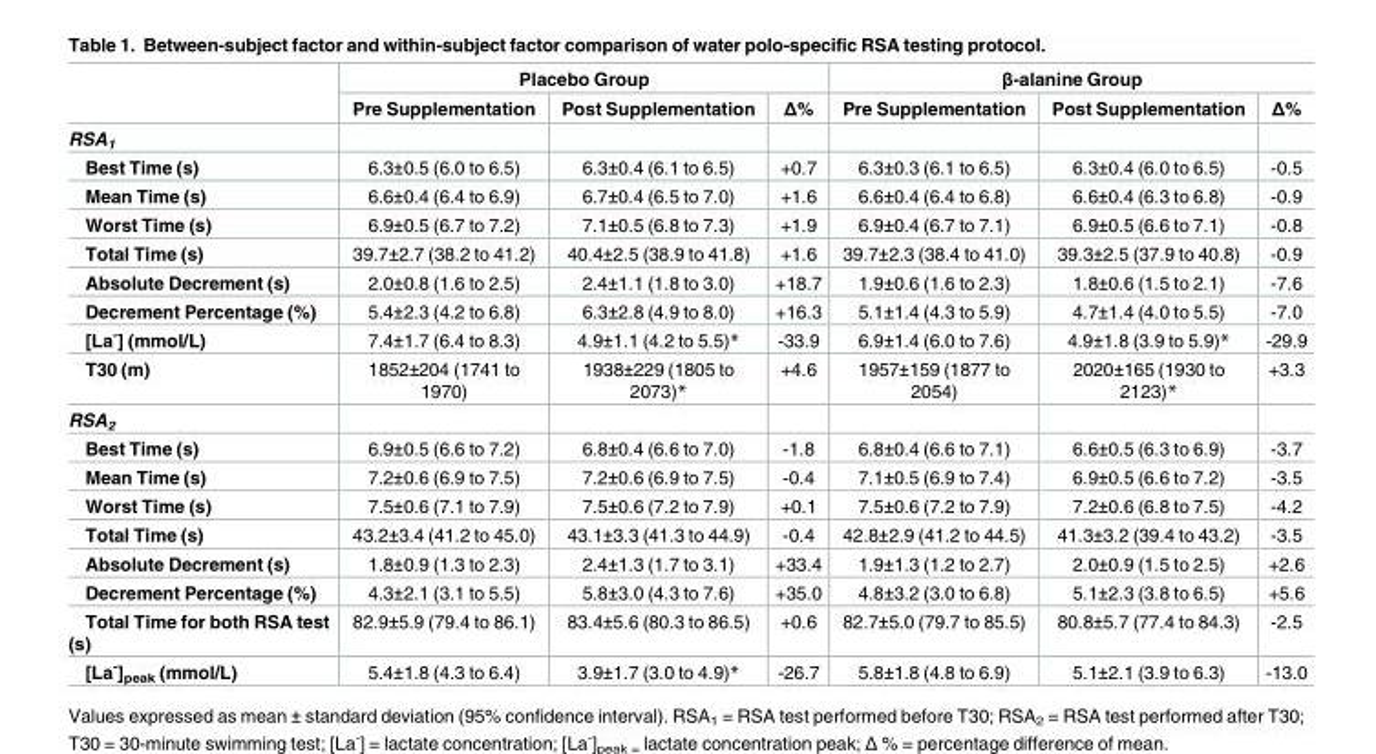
<table><thead><tr><td rowspan="2"></td><td colspan="3">Placebo Group</td><td colspan="3">β-alanine Group</td></tr><tr><td>Pre Supplementation</td><td>Post Supplementation</td><td>Δ%</td><td>Pre Supplementation</td><td>Post Supplementation</td><td>Δ%</td></tr></thead><tbody><tr><td colspan="7">RSA<sub>1</sub></td></tr><tr><td>Best Time (s)</td><td>6.3±0.5 (6.0 to 6.5)</td><td>6.3±0.4 (6.1 to 6.5)</td><td>+0.7</td><td>6.3±0.3 (6.1 to 6.5)</td><td>6.3±0.4 (6.0 to 6.5)</td><td>-0.5</td></tr><tr><td>Mean Time (s)</td><td>6.6±0.4 (6.4 to 6.9)</td><td>6.7±0.4 (6.5 to 7.0)</td><td>+1.6</td><td>6.6±0.4 (6.4 to 6.8)</td><td>6.6±0.4 (6.3 to 6.8)</td><td>-0.9</td></tr><tr><td>Worst Time (s)</td><td>6.9±0.5 (6.7 to 7.2)</td><td>7.1±0.5 (6.8 to 7.3)</td><td>+1.9</td><td>6.9±0.4 (6.7 to 7.1)</td><td>6.9±0.5 (6.6 to 7.1)</td><td>-0.8</td></tr><tr><td>Total Time (s)</td><td>39.7±2.7 (38.2 to 41.2)</td><td>40.4±2.5 (38.9 to 41.8)</td><td>+1.6</td><td>39.7±2.3 (38.4 to 41.0)</td><td>39.3±2.5 (37.9 to 40.8)</td><td>-0.9</td></tr><tr><td>Absolute Decrement (s)</td><td>2.0±0.8 (1.6 to 2.5)</td><td>2.4±1.1 (1.8 to 3.0)</td><td>+18.7</td><td>1.9±0.6 (1.6 to 2.3)</td><td>1.8±0.6 (1.5 to 2.1)</td><td>-7.6</td></tr><tr><td>Decrement Percentage (%)</td><td>5.4±2.3 (4.2 to 6.8)</td><td>6.3±2.8 (4.9 to 8.0)</td><td>+16.3</td><td>5.1±1.4 (4.3 to 5.9)</td><td>4.7±1.4 (4.0 to 5.5)</td><td>-7.0</td></tr><tr><td>[La<sup>-</sup>] (mmol/L)</td><td>7.4±1.7 (6.4 to 8.3)</td><td>4.9±1.1 (4.2 to 5.5)*</td><td>-33.9</td><td>6.9±1.4 (6.0 to 7.6)</td><td>4.9±1.8 (3.9 to 5.9)*</td><td>-29.9</td></tr><tr><td>T30 (m)</td><td>1852±204 (1741 to 1970)</td><td>1938±229 (1805 to 2073)*</td><td>+4.6</td><td>1957±159 (1877 to 2054)</td><td>2020±165 (1930 to 2123)*</td><td>+3.3</td></tr><tr><td colspan="7">RSA<sub>2</sub></td></tr><tr><td>Best Time (s)</td><td>6.9±0.5 (6.6 to 7.2)</td><td>6.8±0.4 (6.6 to 7.0)</td><td>-1.8</td><td>6.8±0.4 (6.6 to 7.1)</td><td>6.6±0.5 (6.3 to 6.9)</td><td>-3.7</td></tr><tr><td>Mean Time (s)</td><td>7.2±0.6 (6.9 to 7.5)</td><td>7.2±0.6 (6.9 to 7.5)</td><td>-0.4</td><td>7.1±0.5 (6.9 to 7.4)</td><td>6.9±0.5 (6.6 to 7.2)</td><td>-3.5</td></tr><tr><td>Worst Time (s)</td><td>7.5±0.6 (7.1 to 7.9)</td><td>7.5±0.6 (7.2 to 7.9)</td><td>+0.1</td><td>7.5±0.6 (7.2 to 7.9)</td><td>7.2±0.6 (6.8 to 7.5)</td><td>-4.2</td></tr><tr><td>Total Time (s)</td><td>43.2±3.4 (41.2 to 45.0)</td><td>43.1±3.3 (41.3 to 44.9)</td><td>-0.4</td><td>42.8±2.9 (41.2 to 44.5)</td><td>41.3±3.2 (39.4 to 43.2)</td><td>-3.5</td></tr><tr><td>Absolute Decrement (s)</td><td>1.8±0.9 (1.3 to 2.3)</td><td>2.4±1.3 (1.7 to 3.1)</td><td>+33.4</td><td>1.9±1.3 (1.2 to 2.7)</td><td>2.0±0.9 (1.5 to 2.5)</td><td>+2.6</td></tr><tr><td>Decrement Percentage (%)</td><td>4.3±2.1 (3.1 to 5.5)</td><td>5.8±3.0 (4.3 to 7.6)</td><td>+35.0</td><td>4.8±3.2 (3.0 to 6.8)</td><td>5.1±2.3 (3.8 to 6.5)</td><td>+5.6</td></tr><tr><td>Total Time for both RSA test (s)</td><td>82.9±5.9 (79.4 to 86.1)</td><td>83.4±5.6 (80.3 to 86.5)</td><td>+0.6</td><td>82.7±5.0 (79.7 to 85.5)</td><td>80.8±5.7 (77.4 to 84.3)</td><td>-2.5</td></tr><tr><td>[La<sup>-</sup>]<sub>peak</sub> (mmol/L)</td><td>5.4±1.8 (4.3 to 6.4)</td><td>3.9±1.7 (3.0 to 4.9)*</td><td>-26.7</td><td>5.8±1.8 (4.8 to 6.9)</td><td>5.1±2.1 (3.9 to 6.3)</td><td>-13.0</td></tr></tbody></table>